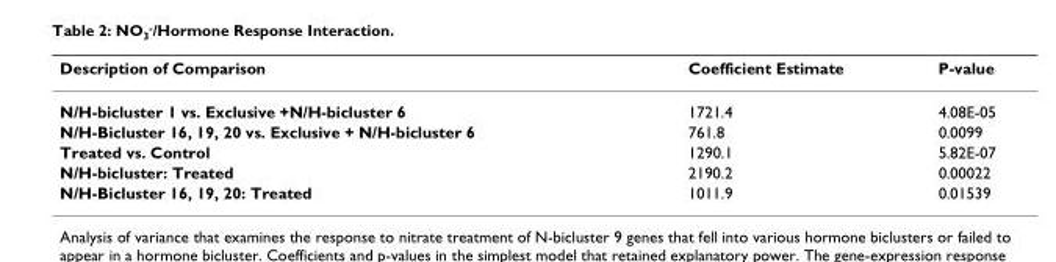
<table><thead><tr><td>Description of Comparison</td><td>Coefficient Estimate</td><td>P-value</td></tr></thead><tbody><tr><td>N/H-bicluster 1 vs. Exclusive +N/H-bicluster 6</td><td>1721.4</td><td>4.08E-05</td></tr><tr><td>N/H-Bicluster 16, 19, 20 vs. Exclusive + N/H-bicluster 6</td><td>761.8</td><td>0.0099</td></tr><tr><td>Treated vs. Control</td><td>1290.1</td><td>5.82E-07</td></tr><tr><td>N/H-bicluster: Treated</td><td>2190.2</td><td>0.00022</td></tr><tr><td>N/H-Bicluster 16, 19, 20: Treated</td><td>1011.9</td><td>0.01539</td></tr></tbody></table>